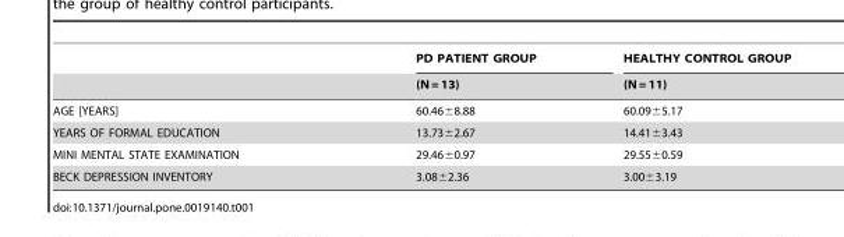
<table><thead><tr><td rowspan="2"></td><td rowspan="2">PD PATIENT GROUP (N = 13)</td><td rowspan="2">HEALTHY CONTROL GROUP (N = 11)</td></tr><tr></tr></thead><tbody><tr><td>AGE [YEARS]</td><td>60.46±8.88</td><td>60.09±5.17</td></tr><tr><td>YEARS OF FORMAL EDUCATION</td><td>13.73±2.67</td><td>14.41±3.43</td></tr><tr><td>MINI MENTAL STATE EXAMINATION</td><td>29.46±0.97</td><td>29.55±0.59</td></tr><tr><td>BECK DEPRESSION INVENTORY</td><td>3.08±2.36</td><td>3.00±3.19</td></tr></tbody></table>